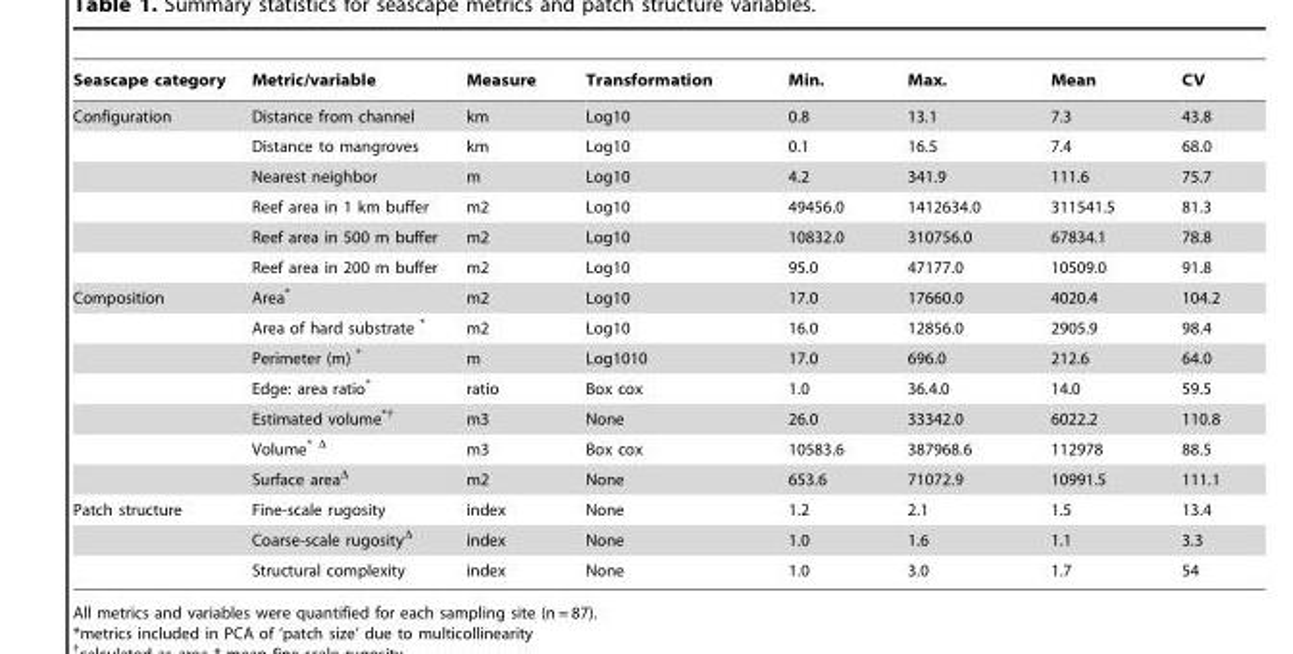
<table><thead><tr><td>Seascape category</td><td>Metric/variable</td><td>Measure</td><td>Transformation</td><td>Min.</td><td>Max.</td><td>Mean</td><td>CV</td></tr></thead><tbody><tr><td rowspan="6">Configuration</td><td>Distance from channel</td><td>km</td><td>Log10</td><td>0.8</td><td>13.1</td><td>7.3</td><td>43.8</td></tr><tr><td>Distance to mangroves</td><td>km</td><td>Log10</td><td>0.1</td><td>16.5</td><td>7.4</td><td>68.0</td></tr><tr><td>Nearest neighbor</td><td>m</td><td>Log10</td><td>4.2</td><td>341.9</td><td>111.6</td><td>75.7</td></tr><tr><td>Reef area in 1 km buffer</td><td>m2</td><td>Log10</td><td>49456.0</td><td>1412634.0</td><td>311541.5</td><td>81.3</td></tr><tr><td>Reef area in 500 m buffer</td><td>m2</td><td>Log10</td><td>10832.0</td><td>310756.0</td><td>67834.1</td><td>78.8</td></tr><tr><td>Reef area in 200 m buffer</td><td>m2</td><td>Log10</td><td>95.0</td><td>47177.0</td><td>10509.0</td><td>91.8</td></tr><tr><td rowspan="7">Composition</td><td>Area*</td><td>m2</td><td>Log10</td><td>17.0</td><td>17660.0</td><td>4020.4</td><td>104.2</td></tr><tr><td>Area of hard substrate *</td><td>m2</td><td>Log10</td><td>16.0</td><td>12856.0</td><td>2905.9</td><td>98.4</td></tr><tr><td>Perimeter (m) *</td><td>m</td><td>Log1010</td><td>17.0</td><td>696.0</td><td>212.6</td><td>64.0</td></tr><tr><td>Edge: area ratio*</td><td>ratio</td><td>Box cox</td><td>1.0</td><td>36.4.0</td><td>14.0</td><td>59.5</td></tr><tr><td>Estimated volume*†</td><td>m3</td><td>None</td><td>26.0</td><td>33342.0</td><td>6022.2</td><td>110.8</td></tr><tr><td>Volume* Δ</td><td>m3</td><td>Box cox</td><td>10583.6</td><td>387968.6</td><td>112978</td><td>88.5</td></tr><tr><td>Surface areaΔ</td><td>m2</td><td>None</td><td>653.6</td><td>71072.9</td><td>10991.5</td><td>111.1</td></tr><tr><td rowspan="3">Patch structure</td><td>Fine-scale rugosity</td><td>index</td><td>None</td><td>1.2</td><td>2.1</td><td>1.5</td><td>13.4</td></tr><tr><td>Coarse-scale rugosityΔ</td><td>index</td><td>None</td><td>1.0</td><td>1.6</td><td>1.1</td><td>3.3</td></tr><tr><td>Structural complexity</td><td>index</td><td>None</td><td>1.0</td><td>3.0</td><td>1.7</td><td>54</td></tr></tbody></table>